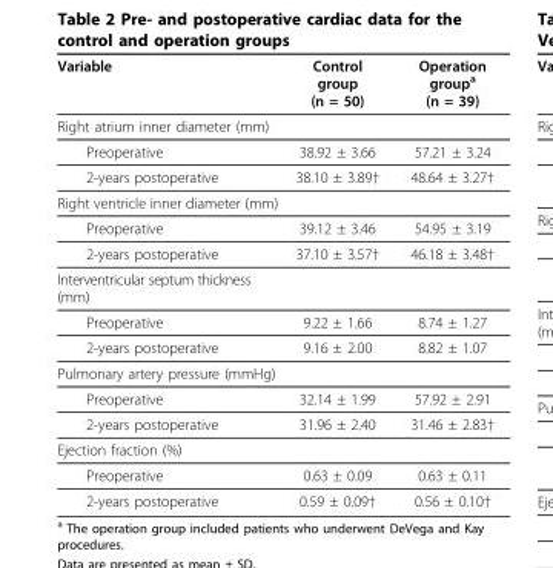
<table><thead><tr><td>Variable</td><td>Control group (n = 50)</td><td>Operation group<sup>a</sup> (n = 39)</td></tr></thead><tbody><tr><td colspan="3">Right atrium inner diameter (mm)</td></tr><tr><td>Preoperative</td><td>38.92 ± 3.66</td><td>57.21 ± 3.24</td></tr><tr><td>2-years postoperative</td><td>38.10 ± 3.89†</td><td>48.64 ± 3.27†</td></tr><tr><td colspan="3">Right ventricle inner diameter (mm)</td></tr><tr><td>Preoperative</td><td>39.12 ± 3.46</td><td>54.95 ± 3.19</td></tr><tr><td>2-years postoperative</td><td>37.10 ± 3.57†</td><td>46.18 ± 3.48†</td></tr><tr><td colspan="3">Interventricular septum thickness (mm)</td></tr><tr><td>Preoperative</td><td>9.22 ± 1.66</td><td>8.74 ± 1.27</td></tr><tr><td>2-years postoperative</td><td>9.16 ± 2.00</td><td>8.82 ± 1.07</td></tr><tr><td colspan="3">Pulmonary artery pressure (mmHg)</td></tr><tr><td>Preoperative</td><td>32.14 ± 1.99</td><td>57.92 ± 2.91</td></tr><tr><td>2-years postoperative</td><td>31.96 ± 2.40</td><td>31.46 ± 2.83†</td></tr><tr><td colspan="3">Ejection fraction (%)</td></tr><tr><td>Preoperative</td><td>0.63 ± 0.09</td><td>0.63 ± 0.11</td></tr><tr><td>2-years postoperative</td><td>0.59 ± 0.09†</td><td>0.56 ± 0.10†</td></tr></tbody></table>